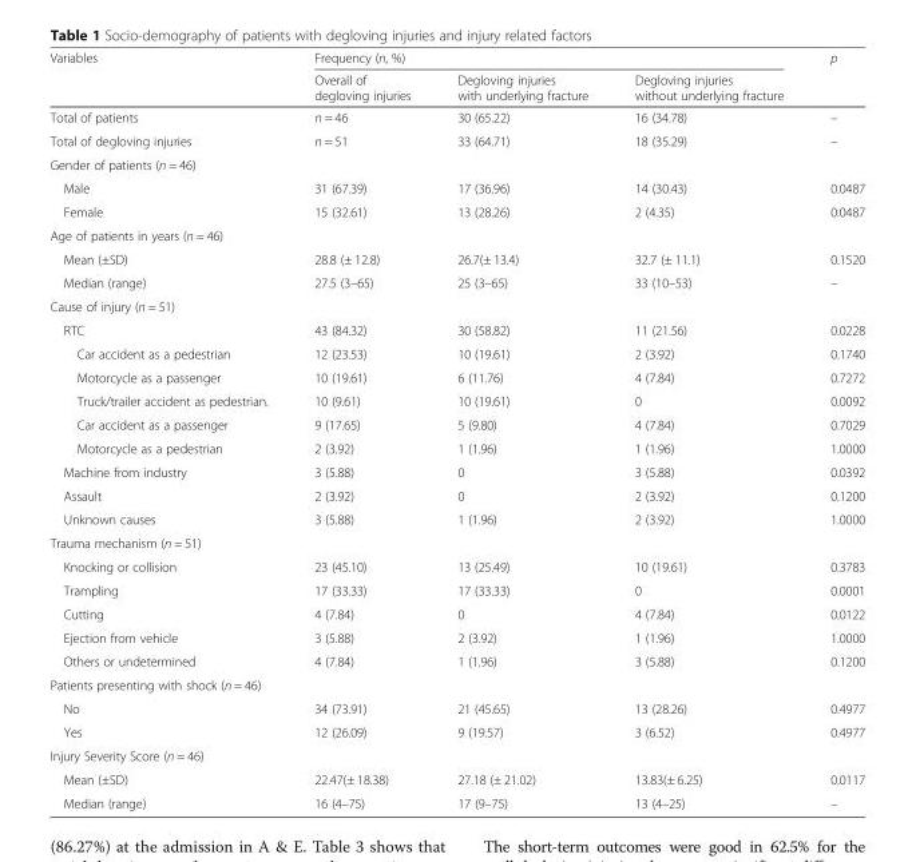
<table><thead><tr><td rowspan="2">Variables</td><td colspan="3">Frequency (n, %)</td><td rowspan="2">p</td></tr><tr><td>Overall of degloving injuries</td><td>Degloving injuries with underlying fracture</td><td>Degloving injuries without underlying fracture</td></tr></thead><tbody><tr><td>Total of patients</td><td>n = 46</td><td>30 (65.22)</td><td>16 (34.78)</td><td>–</td></tr><tr><td>Total of degloving injuries</td><td>n = 51</td><td>33 (64.71)</td><td>18 (35.29)</td><td>–</td></tr><tr><td colspan="5">Gender of patients (n = 46)</td></tr><tr><td>Male</td><td>31 (67.39)</td><td>17 (36.96)</td><td>14 (30.43)</td><td>0.0487</td></tr><tr><td>Female</td><td>15 (32.61)</td><td>13 (28.26)</td><td>2 (4.35)</td><td>0.0487</td></tr><tr><td colspan="5">Age of patients in years (n = 46)</td></tr><tr><td>Mean (±SD)</td><td>28.8 (± 12.8)</td><td>26.7(± 13.4)</td><td>32.7 (± 11.1)</td><td>0.1520</td></tr><tr><td>Median (range)</td><td>27.5 (3–65)</td><td>25 (3–65)</td><td>33 (10–53)</td><td>–</td></tr><tr><td colspan="5">Cause of injury (n = 51)</td></tr><tr><td>RTC</td><td>43 (84.32)</td><td>30 (58.82)</td><td>11 (21.56)</td><td>0.0228</td></tr><tr><td>Car accident as a pedestrian</td><td>12 (23.53)</td><td>10 (19.61)</td><td>2 (3.92)</td><td>0.1740</td></tr><tr><td>Motorcycle as a passenger</td><td>10 (19.61)</td><td>6 (11.76)</td><td>4 (7.84)</td><td>0.7272</td></tr><tr><td>Truck/trailer accident as pedestrian.</td><td>10 (9.61)</td><td>10 (19.61)</td><td>0</td><td>0.0092</td></tr><tr><td>Car accident as a passenger</td><td>9 (17.65)</td><td>5 (9.80)</td><td>4 (7.84)</td><td>0.7029</td></tr><tr><td>Motorcycle as a pedestrian</td><td>2 (3.92)</td><td>1 (1.96)</td><td>1 (1.96)</td><td>1.0000</td></tr><tr><td>Machine from industry</td><td>3 (5.88)</td><td>0</td><td>3 (5.88)</td><td>0.0392</td></tr><tr><td>Assault</td><td>2 (3.92)</td><td>0</td><td>2 (3.92)</td><td>0.1200</td></tr><tr><td>Unknown causes</td><td>3 (5.88)</td><td>1 (1.96)</td><td>2 (3.92)</td><td>1.0000</td></tr><tr><td colspan="5">Trauma mechanism (n = 51)</td></tr><tr><td>Knocking or collision</td><td>23 (45.10)</td><td>13 (25.49)</td><td>10 (19.61)</td><td>0.3783</td></tr><tr><td>Trampling</td><td>17 (33.33)</td><td>17 (33.33)</td><td>0</td><td>0.0001</td></tr><tr><td>Cutting</td><td>4 (7.84)</td><td>0</td><td>4 (7.84)</td><td>0.0122</td></tr><tr><td>Ejection from vehicle</td><td>3 (5.88)</td><td>2 (3.92)</td><td>1 (1.96)</td><td>1.0000</td></tr><tr><td>Others or undetermined</td><td>4 (7.84)</td><td>1 (1.96)</td><td>3 (5.88)</td><td>0.1200</td></tr><tr><td colspan="5">Patients presenting with shock (n = 46)</td></tr><tr><td>No</td><td>34 (73.91)</td><td>21 (45.65)</td><td>13 (28.26)</td><td>0.4977</td></tr><tr><td>Yes</td><td>12 (26.09)</td><td>9 (19.57)</td><td>3 (6.52)</td><td>0.4977</td></tr><tr><td colspan="5">Injury Severity Score (n = 46)</td></tr><tr><td>Mean (±SD)</td><td>22.47(± 18.38)</td><td>27.18 (± 21.02)</td><td>13.83(± 6.25)</td><td>0.0117</td></tr><tr><td>Median (range)</td><td>16 (4–75)</td><td>17 (9–75)</td><td>13 (4–25)</td><td>–</td></tr></tbody></table>